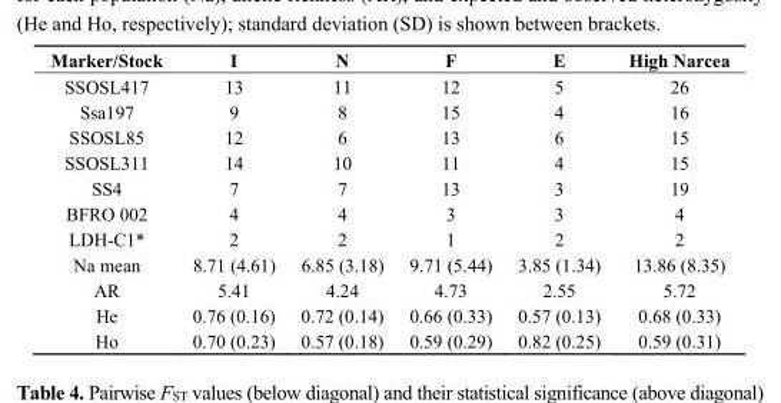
<table><thead><tr><td>Marker/Stock</td><td>I</td><td>N</td><td>F</td><td>E</td><td>High Narcea</td></tr></thead><tbody><tr><td>SSOSL417</td><td>13</td><td>11</td><td>12</td><td>5</td><td>26</td></tr><tr><td>Ssa197</td><td>9</td><td>8</td><td>15</td><td>4</td><td>16</td></tr><tr><td>SSOSL85</td><td>12</td><td>6</td><td>13</td><td>6</td><td>15</td></tr><tr><td>SSOSL311</td><td>14</td><td>10</td><td>11</td><td>4</td><td>15</td></tr><tr><td>SS4</td><td>7</td><td>7</td><td>13</td><td>3</td><td>19</td></tr><tr><td>BFRO 002</td><td>4</td><td>4</td><td>3</td><td>3</td><td>4</td></tr><tr><td>LDH-C1*</td><td>2</td><td>2</td><td>1</td><td>2</td><td>2</td></tr><tr><td>Na mean</td><td>8.71 (4.61)</td><td>6.85 (3.18)</td><td>9.71 (5.44)</td><td>3.85 (1.34)</td><td>13.86 (8.35)</td></tr><tr><td>AR</td><td>5.41</td><td>4.24</td><td>4.73</td><td>2.55</td><td>5.72</td></tr><tr><td>He</td><td>0.76 (0.16)</td><td>0.72 (0.14)</td><td>0.66 (0.33)</td><td>0.57 (0.13)</td><td>0.68 (0.33)</td></tr><tr><td>Ho</td><td>0.70 (0.23)</td><td>0.57 (0.18)</td><td>0.59 (0.29)</td><td>0.82 (0.25)</td><td>0.59 (0.31)</td></tr></tbody></table>